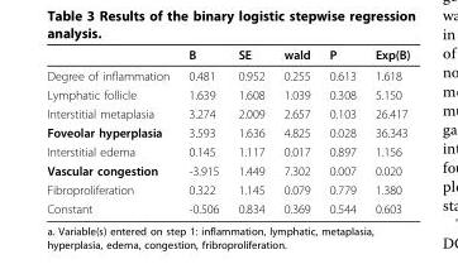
<table><thead><tr><td></td><td>B</td><td>SE</td><td>wald</td><td>P</td><td>Exp(B)</td></tr></thead><tbody><tr><td>Degree of inflammation</td><td>0.481</td><td>0.952</td><td>0.255</td><td>0.613</td><td>1.618</td></tr><tr><td>Lymphatic follicle</td><td>1.639</td><td>1.608</td><td>1.039</td><td>0.308</td><td>5.150</td></tr><tr><td>Interstitial metaplasia</td><td>3.274</td><td>2.009</td><td>2.657</td><td>0.103</td><td>26.417</td></tr><tr><td>Foveolar hyperplasia</td><td>3.593</td><td>1.636</td><td>4.825</td><td>0.028</td><td>36.343</td></tr><tr><td>Interstitial edema</td><td>0.145</td><td>1.117</td><td>0.017</td><td>0.897</td><td>1.156</td></tr><tr><td>Vascular congestion</td><td>-3.915</td><td>1.449</td><td>7.302</td><td>0.007</td><td>0.020</td></tr><tr><td>Fibroproliferation</td><td>0.322</td><td>1.145</td><td>0.079</td><td>0.779</td><td>1.380</td></tr><tr><td>Constant</td><td>-0.506</td><td>0.834</td><td>0.369</td><td>0.544</td><td>0.603</td></tr></tbody></table>